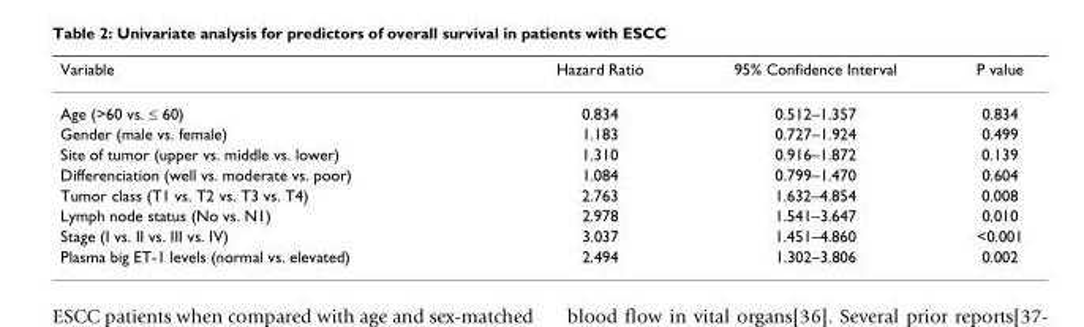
<table><thead><tr><td>Variable</td><td>Hazard Ratio</td><td>95% Confidence Interval</td><td>P value</td></tr></thead><tbody><tr><td>Age (&gt;60 vs. ≤ 60)</td><td>0.834</td><td>0.512–1.357</td><td>0.834</td></tr><tr><td>Gender (male vs. female)</td><td>1.183</td><td>0.727–1.924</td><td>0.499</td></tr><tr><td>Site of tumor (upper vs. middle vs. lower)</td><td>1.310</td><td>0.916–1.872</td><td>0.139</td></tr><tr><td>Differenciation (well vs. moderate vs. poor)</td><td>1.084</td><td>0.799–1.470</td><td>0.604</td></tr><tr><td>Tumor class (T1 vs. T2 vs. T3 vs. T4)</td><td>2.763</td><td>1.632–4.854</td><td>0.008</td></tr><tr><td>Lymph node status (No vs. N1)</td><td>2.978</td><td>1.541–3.647</td><td>0.010</td></tr><tr><td>Stage (I vs. II vs. III vs. IV)</td><td>3.037</td><td>1.451–4.860</td><td>&lt;0.001</td></tr><tr><td>Plasma big ET-1 levels (normal vs. elevated)</td><td>2.494</td><td>1.302–3.806</td><td>0.002</td></tr></tbody></table>